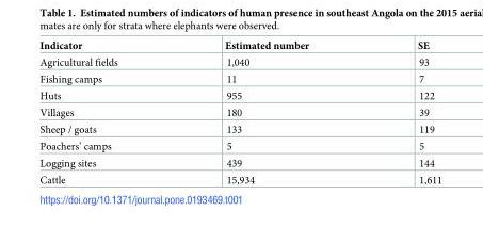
<table><thead><tr><td>Indicator</td><td>Estimated number</td><td>SE</td></tr></thead><tbody><tr><td>Agricultural fields</td><td>1,040</td><td>93</td></tr><tr><td>Fishing camps</td><td>11</td><td>7</td></tr><tr><td>Huts</td><td>955</td><td>122</td></tr><tr><td>Villages</td><td>180</td><td>39</td></tr><tr><td>Sheep / goats</td><td>133</td><td>119</td></tr><tr><td>Poachers’ camps</td><td>5</td><td>5</td></tr><tr><td>Logging sites</td><td>439</td><td>144</td></tr><tr><td>Cattle</td><td>15,934</td><td>1,611</td></tr></tbody></table>